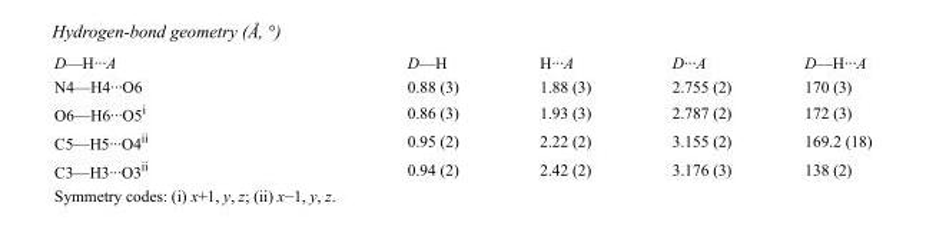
<table><tbody><tr><td>D—H···A</td><td>D—H</td><td>H···A</td><td>D···A</td><td>D—H···A</td></tr><tr><td>N4—H4···O6</td><td>0.88 (3)</td><td>1.88 (3)</td><td>2.755 (2)</td><td>170 (3)</td></tr><tr><td>O6—H6···O5<sup>i</sup></td><td>0.86 (3)</td><td>1.93 (3)</td><td>2.787 (2)</td><td>172 (3)</td></tr><tr><td>C5—H5···O4<sup>ii</sup></td><td>0.95 (2)</td><td>2.22 (2)</td><td>3.155 (2)</td><td>169.2 (18)</td></tr><tr><td>C3—H3···O3<sup>ii</sup></td><td>0.94 (2)</td><td>2.42 (2)</td><td>3.176 (3)</td><td>138 (2)</td></tr></tbody></table>